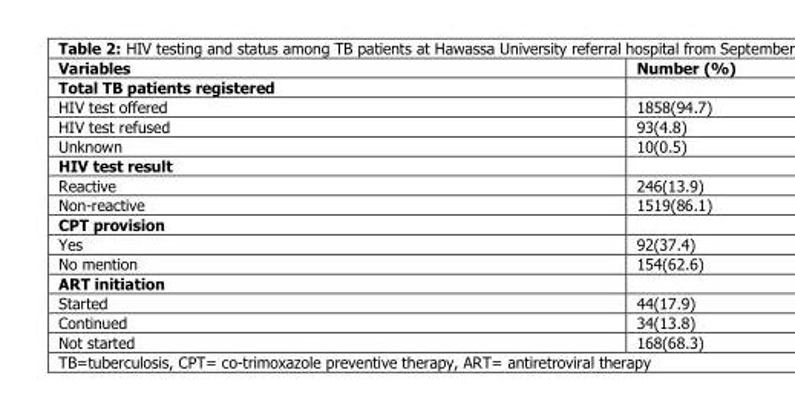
<table><thead><tr><td>Variables</td><td>Number (%)</td></tr></thead><tbody><tr><td colspan="2">Total TB patients registered</td></tr><tr><td>HIV test offered</td><td>1858(94.7)</td></tr><tr><td>HIV test refused</td><td>93(4.8)</td></tr><tr><td>Unknown</td><td>10(0.5)</td></tr><tr><td colspan="2">HIV test result</td></tr><tr><td>Reactive</td><td>246(13.9)</td></tr><tr><td>Non-reactive</td><td>1519(86.1)</td></tr><tr><td colspan="2">CPT provision</td></tr><tr><td>Yes</td><td>92(37.4)</td></tr><tr><td>No mention</td><td>154(62.6)</td></tr><tr><td colspan="2">ART initiation</td></tr><tr><td>Started</td><td>44(17.9)</td></tr><tr><td>Continued</td><td>34(13.8)</td></tr><tr><td>Not started</td><td>168(68.3)</td></tr></tbody></table>